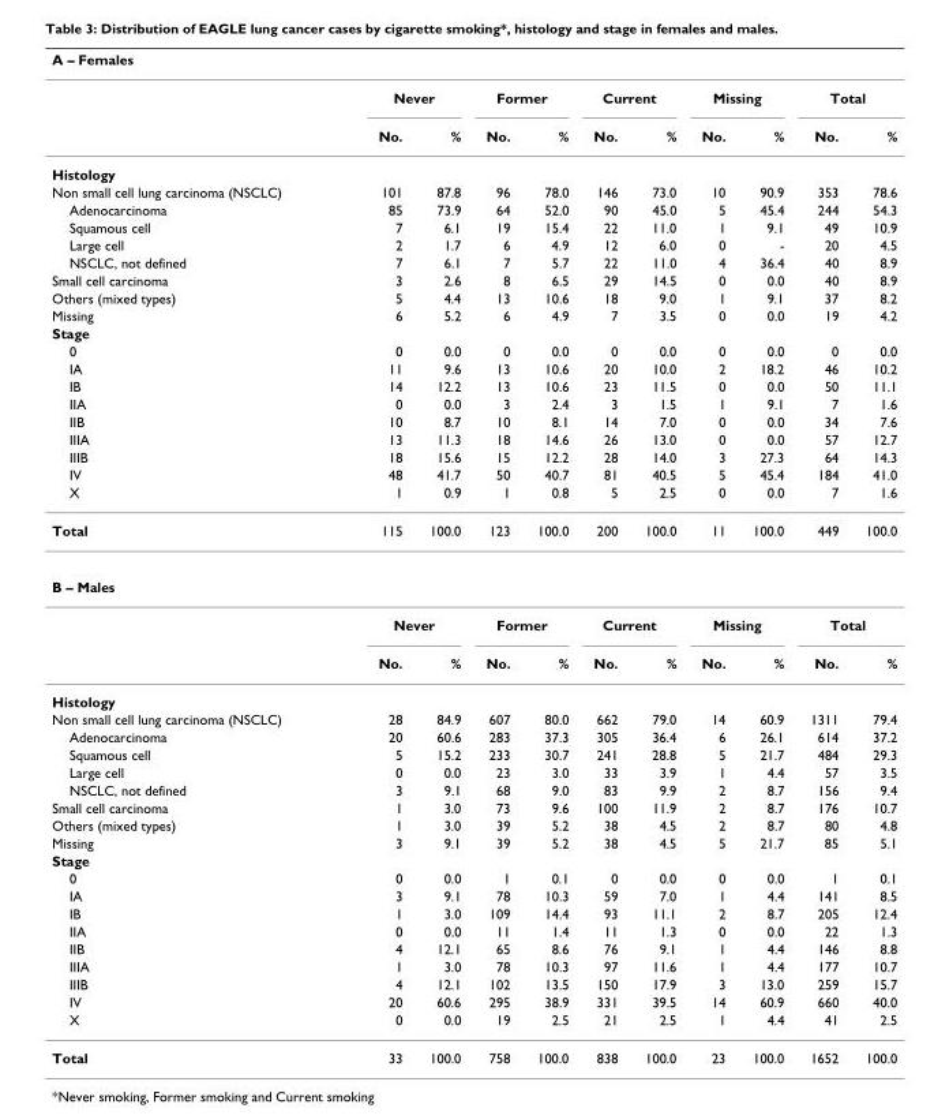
<table><thead><tr><td colspan="11">A – Females</td></tr><tr><td rowspan="2"></td><td colspan="2">Never</td><td colspan="2">Former</td><td colspan="2">Current</td><td colspan="2">Missing</td><td colspan="2">Total</td></tr><tr><td>No.</td><td>%</td><td>No.</td><td>%</td><td>No.</td><td>%</td><td>No.</td><td>%</td><td>No.</td><td>%</td></tr></thead><tbody><tr><td colspan="11">Histology</td></tr><tr><td>Non small cell lung carcinoma (NSCLC)</td><td>101</td><td>87.8</td><td>96</td><td>78.0</td><td>146</td><td>73.0</td><td>10</td><td>90.9</td><td>353</td><td>78.6</td></tr><tr><td>Adenocarcinoma</td><td>85</td><td>73.9</td><td>64</td><td>52.0</td><td>90</td><td>45.0</td><td>5</td><td>45.4</td><td>244</td><td>54.3</td></tr><tr><td>Squamous cell</td><td>7</td><td>6.1</td><td>19</td><td>15.4</td><td>22</td><td>11.0</td><td>1</td><td>9.1</td><td>49</td><td>10.9</td></tr><tr><td>Large cell</td><td>2</td><td>1.7</td><td>6</td><td>4.9</td><td>12</td><td>6.0</td><td>0</td><td>-</td><td>20</td><td>4.5</td></tr><tr><td>NSCLC, not defined</td><td>7</td><td>6.1</td><td>7</td><td>5.7</td><td>22</td><td>11.0</td><td>4</td><td>36.4</td><td>40</td><td>8.9</td></tr><tr><td>Small cell carcinoma</td><td>3</td><td>2.6</td><td>8</td><td>6.5</td><td>29</td><td>14.5</td><td>0</td><td>0.0</td><td>40</td><td>8.9</td></tr><tr><td>Others (mixed types)</td><td>5</td><td>4.4</td><td>13</td><td>10.6</td><td>18</td><td>9.0</td><td>1</td><td>9.1</td><td>37</td><td>8.2</td></tr><tr><td>Missing</td><td>6</td><td>5.2</td><td>6</td><td>4.9</td><td>7</td><td>3.5</td><td>0</td><td>0.0</td><td>19</td><td>4.2</td></tr><tr><td colspan="11">Stage</td></tr><tr><td>0</td><td>0</td><td>0.0</td><td>0</td><td>0.0</td><td>0</td><td>0.0</td><td>0</td><td>0.0</td><td>0</td><td>0.0</td></tr><tr><td>IA</td><td>11</td><td>9.6</td><td>13</td><td>10.6</td><td>20</td><td>10.0</td><td>2</td><td>18.2</td><td>46</td><td>10.2</td></tr><tr><td>IB</td><td>14</td><td>12.2</td><td>13</td><td>10.6</td><td>23</td><td>11.5</td><td>0</td><td>0.0</td><td>50</td><td>11.1</td></tr><tr><td>IIA</td><td>0</td><td>0.0</td><td>3</td><td>2.4</td><td>3</td><td>1.5</td><td>1</td><td>9.1</td><td>7</td><td>1.6</td></tr><tr><td>IIB</td><td>10</td><td>8.7</td><td>10</td><td>8.1</td><td>14</td><td>7.0</td><td>0</td><td>0.0</td><td>34</td><td>7.6</td></tr><tr><td>IIIA</td><td>13</td><td>11.3</td><td>18</td><td>14.6</td><td>26</td><td>13.0</td><td>0</td><td>0.0</td><td>57</td><td>12.7</td></tr><tr><td>IIIB</td><td>18</td><td>15.6</td><td>15</td><td>12.2</td><td>28</td><td>14.0</td><td>3</td><td>27.3</td><td>64</td><td>14.3</td></tr><tr><td>IV</td><td>48</td><td>41.7</td><td>50</td><td>40.7</td><td>81</td><td>40.5</td><td>5</td><td>45.4</td><td>184</td><td>41.0</td></tr><tr><td>X</td><td>1</td><td>0.9</td><td>1</td><td>0.8</td><td>5</td><td>2.5</td><td>0</td><td>0.0</td><td>7</td><td>1.6</td></tr><tr><td>Total</td><td>115</td><td>100.0</td><td>123</td><td>100.0</td><td>200</td><td>100.0</td><td>11</td><td>100.0</td><td>449</td><td>100.0</td></tr><tr><td colspan="11">B – Males</td></tr><tr><td></td><td colspan="2">Never</td><td colspan="2">Former</td><td colspan="2">Current</td><td colspan="2">Missing</td><td colspan="2">Total</td></tr><tr><td></td><td>No.</td><td>%</td><td>No.</td><td>%</td><td>No.</td><td>%</td><td>No.</td><td>%</td><td>No.</td><td>%</td></tr><tr><td colspan="11">Histology</td></tr><tr><td>Non small cell lung carcinoma (NSCLC)</td><td>28</td><td>84.9</td><td>607</td><td>80.0</td><td>662</td><td>79.0</td><td>14</td><td>60.9</td><td>1311</td><td>79.4</td></tr><tr><td>Adenocarcinoma</td><td>20</td><td>60.6</td><td>283</td><td>37.3</td><td>305</td><td>36.4</td><td>6</td><td>26.1</td><td>614</td><td>37.2</td></tr><tr><td>Squamous cell</td><td>5</td><td>15.2</td><td>233</td><td>30.7</td><td>241</td><td>28.8</td><td>5</td><td>21.7</td><td>484</td><td>29.3</td></tr><tr><td>Large cell</td><td>0</td><td>0.0</td><td>23</td><td>3.0</td><td>33</td><td>3.9</td><td>1</td><td>4.4</td><td>57</td><td>3.5</td></tr><tr><td>NSCLC, not defined</td><td>3</td><td>9.1</td><td>68</td><td>9.0</td><td>83</td><td>9.9</td><td>2</td><td>8.7</td><td>156</td><td>9.4</td></tr><tr><td>Small cell carcinoma</td><td>1</td><td>3.0</td><td>73</td><td>9.6</td><td>100</td><td>11.9</td><td>2</td><td>8.7</td><td>176</td><td>10.7</td></tr><tr><td>Others (mixed types)</td><td>1</td><td>3.0</td><td>39</td><td>5.2</td><td>38</td><td>4.5</td><td>2</td><td>8.7</td><td>80</td><td>4.8</td></tr><tr><td>Missing</td><td>3</td><td>9.1</td><td>39</td><td>5.2</td><td>38</td><td>4.5</td><td>5</td><td>21.7</td><td>85</td><td>5.1</td></tr><tr><td colspan="11">Stage</td></tr><tr><td>0</td><td>0</td><td>0.0</td><td>1</td><td>0.1</td><td>0</td><td>0.0</td><td>0</td><td>0.0</td><td>1</td><td>0.1</td></tr><tr><td>IA</td><td>3</td><td>9.1</td><td>78</td><td>10.3</td><td>59</td><td>7.0</td><td>1</td><td>4.4</td><td>141</td><td>8.5</td></tr><tr><td>IB</td><td>1</td><td>3.0</td><td>109</td><td>14.4</td><td>93</td><td>11.1</td><td>2</td><td>8.7</td><td>205</td><td>12.4</td></tr><tr><td>IIA</td><td>0</td><td>0.0</td><td>11</td><td>1.4</td><td>11</td><td>1.3</td><td>0</td><td>0.0</td><td>22</td><td>1.3</td></tr><tr><td>IIB</td><td>4</td><td>12.1</td><td>65</td><td>8.6</td><td>76</td><td>9.1</td><td>1</td><td>4.4</td><td>146</td><td>8.8</td></tr><tr><td>IIIA</td><td>1</td><td>3.0</td><td>78</td><td>10.3</td><td>97</td><td>11.6</td><td>1</td><td>4.4</td><td>177</td><td>10.7</td></tr><tr><td>IIIB</td><td>4</td><td>12.1</td><td>102</td><td>13.5</td><td>150</td><td>17.9</td><td>3</td><td>13.0</td><td>259</td><td>15.7</td></tr><tr><td>IV</td><td>20</td><td>60.6</td><td>295</td><td>38.9</td><td>331</td><td>39.5</td><td>14</td><td>60.9</td><td>660</td><td>40.0</td></tr><tr><td>X</td><td>0</td><td>0.0</td><td>19</td><td>2.5</td><td>21</td><td>2.5</td><td>1</td><td>4.4</td><td>41</td><td>2.5</td></tr><tr><td>Total</td><td>33</td><td>100.0</td><td>758</td><td>100.0</td><td>838</td><td>100.0</td><td>23</td><td>100.0</td><td>1652</td><td>100.0</td></tr></tbody></table>